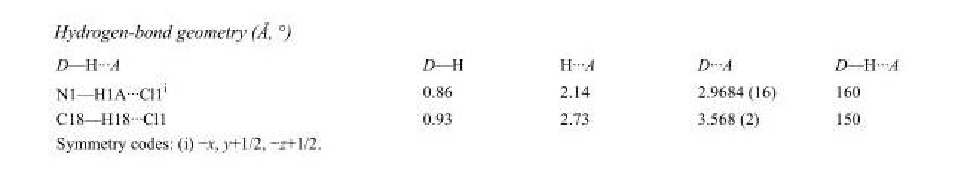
<table><tbody><tr><td>D—H···A</td><td>D—H</td><td>H···A</td><td>D···A</td><td>D—H···A</td></tr><tr><td>N1—H1A···Cl1<sup>i</sup></td><td>0.86</td><td>2.14</td><td>2.9684 (16)</td><td>160</td></tr><tr><td>C18—H18···Cl1</td><td>0.93</td><td>2.73</td><td>3.568 (2)</td><td>150</td></tr></tbody></table>